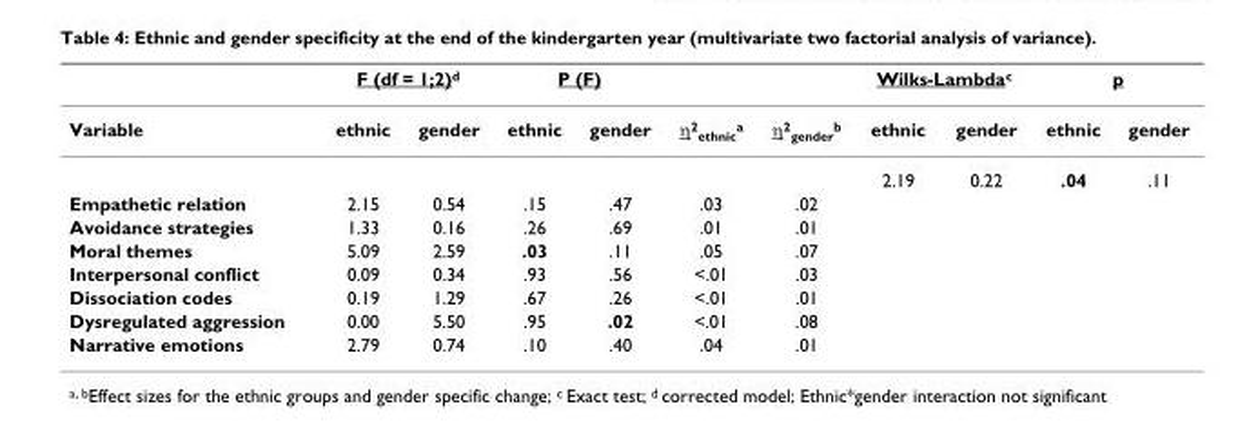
<table><thead><tr><td rowspan="2">Variable</td><td colspan="2">F (df = 1;2)<sup>d</sup></td><td colspan="2">P (F)</td><td rowspan="2">η<sup>2</sup><sub>ethnic</sub><sup>a</sup></td><td rowspan="2">η<sup>2</sup><sub>gender</sub><sup>b</sup></td><td colspan="2">Wilks-Lambda<sup>c</sup></td><td colspan="2">p</td></tr><tr><td>ethnic</td><td>gender</td><td>ethnic</td><td>gender</td><td>ethnic</td><td>gender</td><td>ethnic</td><td>gender</td></tr></thead><tbody><tr><td></td><td></td><td></td><td></td><td></td><td></td><td></td><td>2.19</td><td>0.22</td><td>.04</td><td>.11</td></tr><tr><td>Empathetic relation</td><td>2.15</td><td>0.54</td><td>.15</td><td>.47</td><td>.03</td><td>.02</td><td></td><td></td><td></td><td></td></tr><tr><td>Avoidance strategies</td><td>1.33</td><td>0.16</td><td>.26</td><td>.69</td><td>.01</td><td>.01</td><td></td><td></td><td></td><td></td></tr><tr><td>Moral themes</td><td>5.09</td><td>2.59</td><td>.03</td><td>.11</td><td>.05</td><td>.07</td><td></td><td></td><td></td><td></td></tr><tr><td>Interpersonal conflict</td><td>0.09</td><td>0.34</td><td>.93</td><td>.56</td><td>&lt;.01</td><td>.03</td><td></td><td></td><td></td><td></td></tr><tr><td>Dissociation codes</td><td>0.19</td><td>1.29</td><td>.67</td><td>.26</td><td>&lt;.01</td><td>.01</td><td></td><td></td><td></td><td></td></tr><tr><td>Dysregulated aggression</td><td>0.00</td><td>5.50</td><td>.95</td><td>.02</td><td>&lt;.01</td><td>.08</td><td></td><td></td><td></td><td></td></tr><tr><td>Narrative emotions</td><td>2.79</td><td>0.74</td><td>.10</td><td>.40</td><td>.04</td><td>.01</td><td></td><td></td><td></td><td></td></tr></tbody></table>